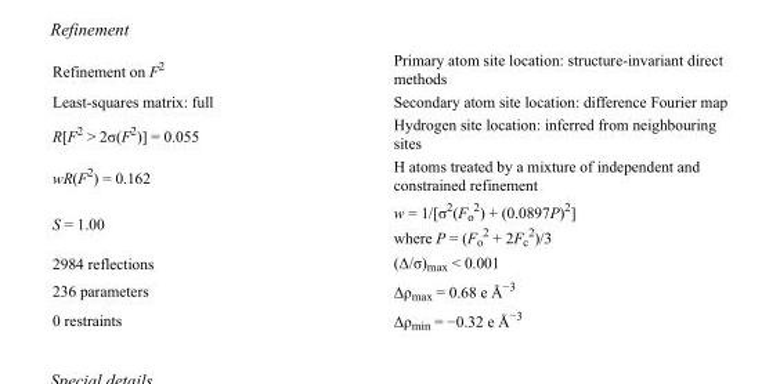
<table><tbody><tr><td>Refinement on F<sup>2</sup></td><td>Primary atom site location: structure-invariant direct methods</td></tr><tr><td>Least-squares matrix: full</td><td>Secondary atom site location: difference Fourier map</td></tr><tr><td>R[F<sup>2</sup> &gt; 2σ(F<sup>2</sup>)] = 0.055</td><td>Hydrogen site location: inferred from neighbouring sites</td></tr><tr><td>wR(F<sup>2</sup>) = 0.162</td><td>H atoms treated by a mixture of independent and constrained refinement</td></tr><tr><td>S = 1.00</td><td>w = 1/[σ<sup>2</sup>(F<sub>o</sub> <sup>2</sup>) + (0.0897P)<sup>2</sup>] where P = (F<sub>o</sub> <sup>2</sup> + 2F<sub>c</sub> <sup>2</sup>)/3</td></tr><tr><td>2984 reflections</td><td>(Δ/σ)<sub>max</sub> &lt; 0.001</td></tr><tr><td>236 parameters</td><td>Δρ<sub>max</sub> = 0.68 e Å<sup>−3</sup></td></tr><tr><td>0 restraints</td><td>Δρ<sub>min</sub> = −0.32 e Å<sup>−3</sup></td></tr></tbody></table>